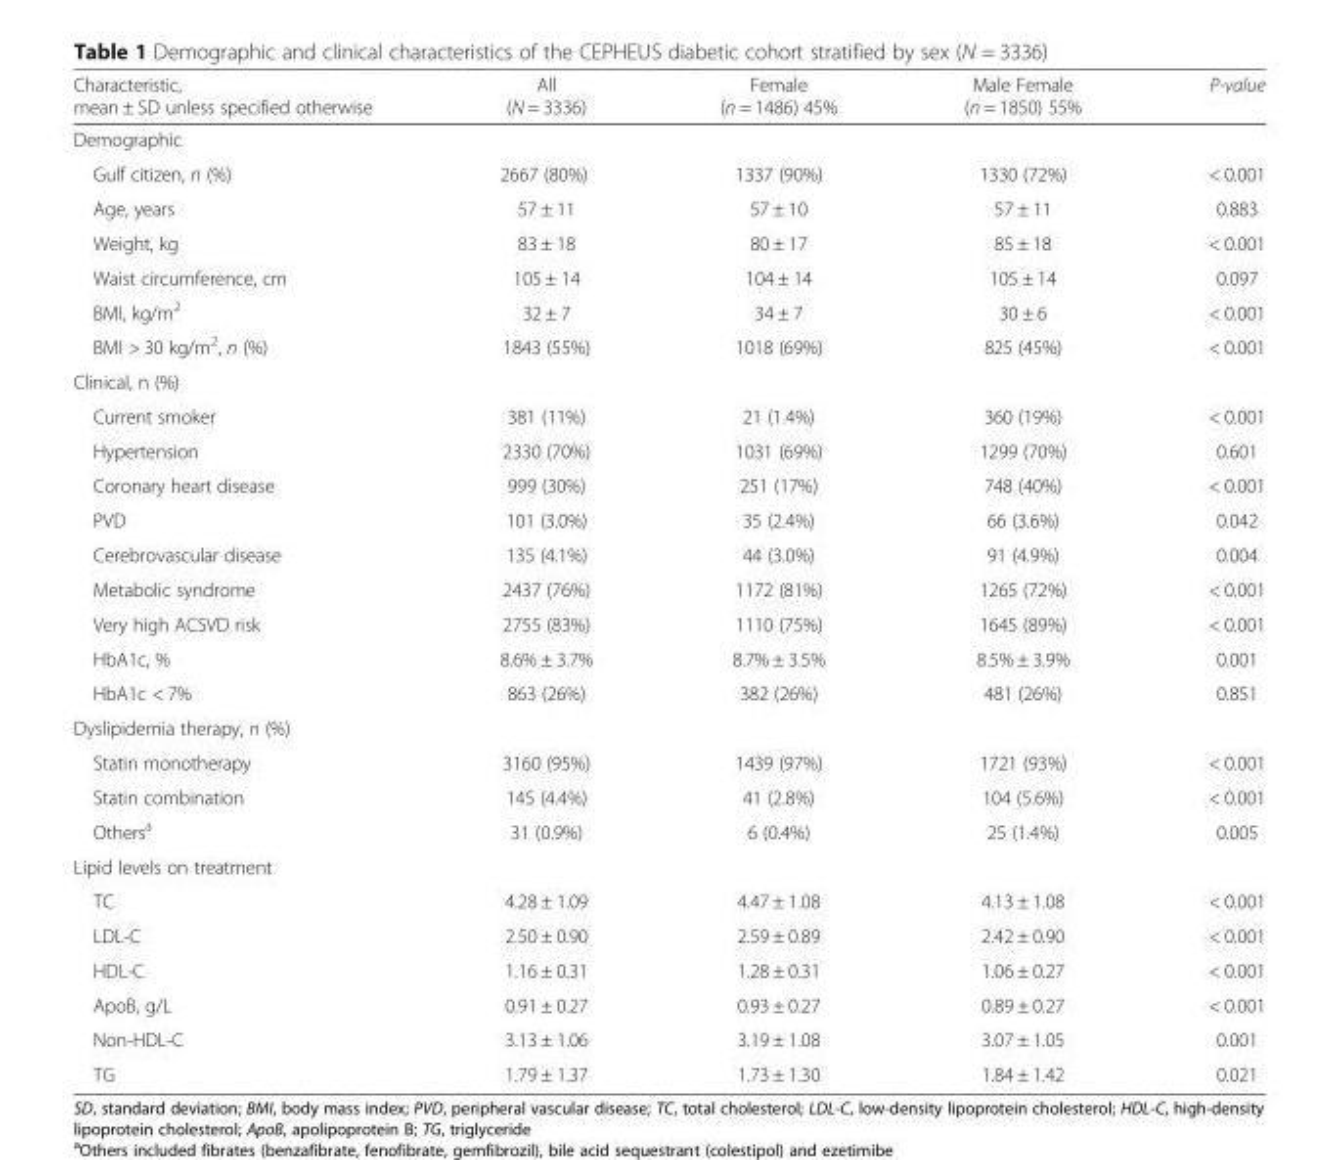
<table><thead><tr><td>Characteristic, mean ± SD unless specified otherwise</td><td>All (N = 3336)</td><td>Female (n = 1486) 45%</td><td>Male Female (n = 1850) 55%</td><td>P-value</td></tr></thead><tbody><tr><td colspan="5">Demographic</td></tr><tr><td>Gulf citizen, n (%)</td><td>2667 (80%)</td><td>1337 (90%)</td><td>1330 (72%)</td><td>&lt; 0.001</td></tr><tr><td>Age, years</td><td>57 ± 11</td><td>57 ± 10</td><td>57 ± 11</td><td>0.883</td></tr><tr><td>Weight, kg</td><td>83 ± 18</td><td>80 ± 17</td><td>85 ± 18</td><td>&lt; 0.001</td></tr><tr><td>Waist circumference, cm</td><td>105 ± 14</td><td>104 ± 14</td><td>105 ± 14</td><td>0.097</td></tr><tr><td>BMI, kg/m<sup>2</sup></td><td>32 ± 7</td><td>34 ± 7</td><td>30 ± 6</td><td>&lt; 0.001</td></tr><tr><td>BMI &gt; 30 kg/m<sup>2</sup>, n (%)</td><td>1843 (55%)</td><td>1018 (69%)</td><td>825 (45%)</td><td>&lt; 0.001</td></tr><tr><td colspan="5">Clinical, n (%)</td></tr><tr><td>Current smoker</td><td>381 (11%)</td><td>21 (1.4%)</td><td>360 (19%)</td><td>&lt; 0.001</td></tr><tr><td>Hypertension</td><td>2330 (70%)</td><td>1031 (69%)</td><td>1299 (70%)</td><td>0.601</td></tr><tr><td>Coronary heart disease</td><td>999 (30%)</td><td>251 (17%)</td><td>748 (40%)</td><td>&lt; 0.001</td></tr><tr><td>PVD</td><td>101 (3.0%)</td><td>35 (2.4%)</td><td>66 (3.6%)</td><td>0.042</td></tr><tr><td>Cerebrovascular disease</td><td>135 (4.1%)</td><td>44 (3.0%)</td><td>91 (4.9%)</td><td>0.004</td></tr><tr><td>Metabolic syndrome</td><td>2437 (76%)</td><td>1172 (81%)</td><td>1265 (72%)</td><td>&lt; 0.001</td></tr><tr><td>Very high ACSVD risk</td><td>2755 (83%)</td><td>1110 (75%)</td><td>1645 (89%)</td><td>&lt; 0.001</td></tr><tr><td>HbA1c, %</td><td>8.6% ± 3.7%</td><td>8.7% ± 3.5%</td><td>8.5% ± 3.9%</td><td>0.001</td></tr><tr><td>HbA1c &lt; 7%</td><td>863 (26%)</td><td>382 (26%)</td><td>481 (26%)</td><td>0.851</td></tr><tr><td colspan="5">Dyslipidemia therapy, n (%)</td></tr><tr><td>Statin monotherapy</td><td>3160 (95%)</td><td>1439 (97%)</td><td>1721 (93%)</td><td>&lt; 0.001</td></tr><tr><td>Statin combination</td><td>145 (4.4%)</td><td>41 (2.8%)</td><td>104 (5.6%)</td><td>&lt; 0.001</td></tr><tr><td>Others<sup>a</sup></td><td>31 (0.9%)</td><td>6 (0.4%)</td><td>25 (1.4%)</td><td>0.005</td></tr><tr><td colspan="5">Lipid levels on treatment</td></tr><tr><td>TC</td><td>4.28 ± 1.09</td><td>4.47 ± 1.08</td><td>4.13 ± 1.08</td><td>&lt; 0.001</td></tr><tr><td>LDL-C</td><td>2.50 ± 0.90</td><td>2.59 ± 0.89</td><td>2.42 ± 0.90</td><td>&lt; 0.001</td></tr><tr><td>HDL-C</td><td>1.16 ± 0.31</td><td>1.28 ± 0.31</td><td>1.06 ± 0.27</td><td>&lt; 0.001</td></tr><tr><td>ApoB, g/L</td><td>0.91 ± 0.27</td><td>0.93 ± 0.27</td><td>0.89 ± 0.27</td><td>&lt; 0.001</td></tr><tr><td>Non-HDL-C</td><td>3.13 ± 1.06</td><td>3.19 ± 1.08</td><td>3.07 ± 1.05</td><td>0.001</td></tr><tr><td>TG</td><td>1.79 ± 1.37</td><td>1.73 ± 1.30</td><td>1.84 ± 1.42</td><td>0.021</td></tr></tbody></table>